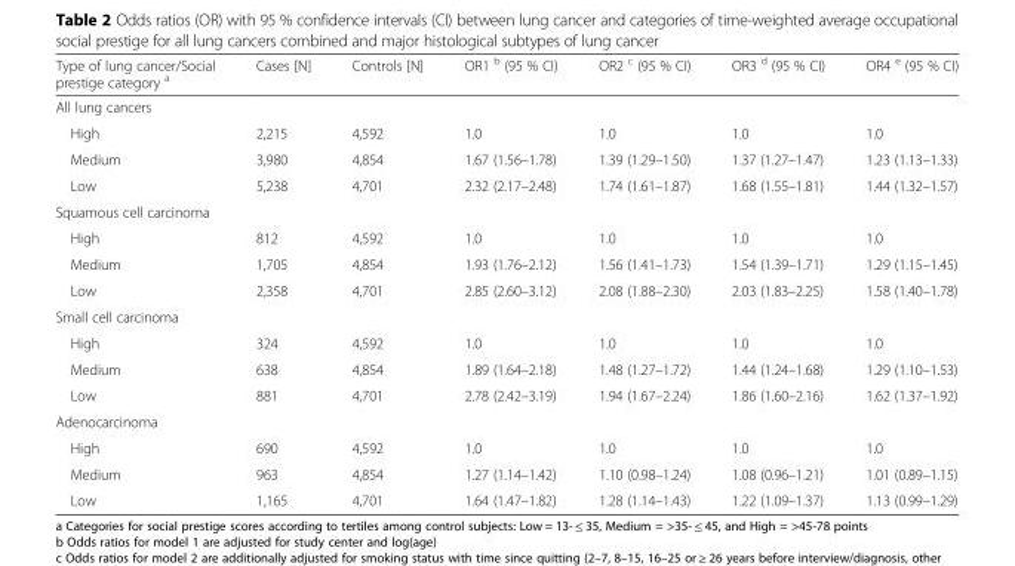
<table><thead><tr><td>Type of lung cancer/Social prestige category <sup>a</sup></td><td>Cases [N]</td><td>Controls [N]</td><td>OR1 <sup>b</sup> (95 % CI)</td><td>OR2 <sup>c</sup> (95 % CI)</td><td>OR3 <sup>d</sup> (95 % CI)</td><td>OR4 <sup>e</sup> (95 % CI)</td></tr></thead><tbody><tr><td colspan="7">All lung cancers</td></tr><tr><td>High</td><td>2,215</td><td>4,592</td><td>1.0</td><td>1.0</td><td>1.0</td><td>1.0</td></tr><tr><td>Medium</td><td>3,980</td><td>4,854</td><td>1.67 (1.56–1.78)</td><td>1.39 (1.29–1.50)</td><td>1.37 (1.27–1.47)</td><td>1.23 (1.13–1.33)</td></tr><tr><td>Low</td><td>5,238</td><td>4,701</td><td>2.32 (2.17–2.48)</td><td>1.74 (1.61–1.87)</td><td>1.68 (1.55–1.81)</td><td>1.44 (1.32–1.57)</td></tr><tr><td colspan="7">Squamous cell carcinoma</td></tr><tr><td>High</td><td>812</td><td>4,592</td><td>1.0</td><td>1.0</td><td>1.0</td><td>1.0</td></tr><tr><td>Medium</td><td>1,705</td><td>4,854</td><td>1.93 (1.76–2.12)</td><td>1.56 (1.41–1.73)</td><td>1.54 (1.39–1.71)</td><td>1.29 (1.15–1.45)</td></tr><tr><td>Low</td><td>2,358</td><td>4,701</td><td>2.85 (2.60–3.12)</td><td>2.08 (1.88–2.30)</td><td>2.03 (1.83–2.25)</td><td>1.58 (1.40–1.78)</td></tr><tr><td colspan="7">Small cell carcinoma</td></tr><tr><td>High</td><td>324</td><td>4,592</td><td>1.0</td><td>1.0</td><td>1.0</td><td>1.0</td></tr><tr><td>Medium</td><td>638</td><td>4,854</td><td>1.89 (1.64–2.18)</td><td>1.48 (1.27–1.72)</td><td>1.44 (1.24–1.68)</td><td>1.29 (1.10–1.53)</td></tr><tr><td>Low</td><td>881</td><td>4,701</td><td>2.78 (2.42–3.19)</td><td>1.94 (1.67–2.24)</td><td>1.86 (1.60–2.16)</td><td>1.62 (1.37–1.92)</td></tr><tr><td colspan="7">Adenocarcinoma</td></tr><tr><td>High</td><td>690</td><td>4,592</td><td>1.0</td><td>1.0</td><td>1.0</td><td>1.0</td></tr><tr><td>Medium</td><td>963</td><td>4,854</td><td>1.27 (1.14–1.42)</td><td>1.10 (0.98–1.24)</td><td>1.08 (0.96–1.21)</td><td>1.01 (0.89–1.15)</td></tr><tr><td>Low</td><td>1,165</td><td>4,701</td><td>1.64 (1.47–1.82)</td><td>1.28 (1.14–1.43)</td><td>1.22 (1.09–1.37)</td><td>1.13 (0.99–1.29)</td></tr></tbody></table>